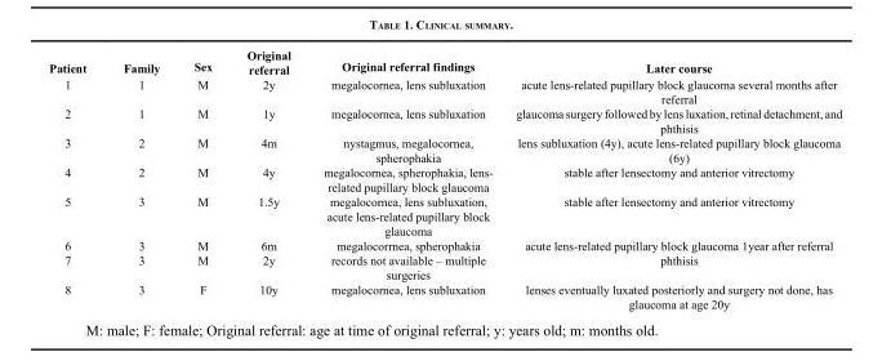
<table><thead><tr><td>Patient</td><td>Family</td><td>Sex</td><td>Original referral</td><td>Original referral findings</td><td>Later course</td></tr></thead><tbody><tr><td>1</td><td>1</td><td>M</td><td>2y</td><td>megalocornea, lens subluxation</td><td>acute lens-related pupillary block glaucoma several months after referral</td></tr><tr><td>2</td><td>1</td><td>M</td><td>1y</td><td>megalocornea, lens subluxation</td><td>glaucoma surgery followed by lens luxation, retinal detachment, and phthisis</td></tr><tr><td>3</td><td>2</td><td>M</td><td>4m</td><td>nystagmus, megalocornea, spherophakia</td><td>lens subluxation (4y), acute lens-related pupillary block glaucoma (6y)</td></tr><tr><td>4</td><td>2</td><td>M</td><td>4y</td><td>megalocornea, spherophakia, lens- related pupillary block glaucoma</td><td>stable after lensectomy and anterior vitrectomy</td></tr><tr><td>5</td><td>3</td><td>M</td><td>1.5y</td><td>megalocornea, lens subluxation, acute lens-related pupillary block glaucoma</td><td>stable after lensectomy and anterior vitrectomy</td></tr><tr><td>6</td><td>3</td><td>M</td><td>6m</td><td>megalocorrnea, spherophakia</td><td>acute lens-related pupillary block glaucoma 1year after referral</td></tr><tr><td>7</td><td>3</td><td>M</td><td>2y</td><td>records not available – multiple surgeries</td><td>phthisis</td></tr><tr><td>8</td><td>3</td><td>F</td><td>10y</td><td>megalocornea, lens subluxation</td><td>lenses eventually luxated posteriorly and surgery not done, has glaucoma at age 20y</td></tr></tbody></table>